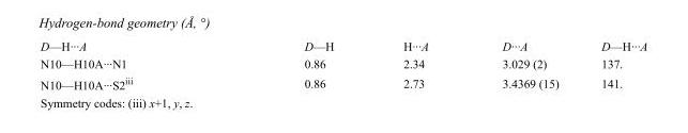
<table><tbody><tr><td>D—H···A</td><td>D—H</td><td>H···A</td><td>D···A</td><td>D—H···A</td></tr><tr><td>N10—H10A···N1</td><td>0.86</td><td>2.34</td><td>3.029 (2)</td><td>137.</td></tr><tr><td>N10—H10A···S2<sup>iii</sup></td><td>0.86</td><td>2.73</td><td>3.4369 (15)</td><td>141.</td></tr></tbody></table>